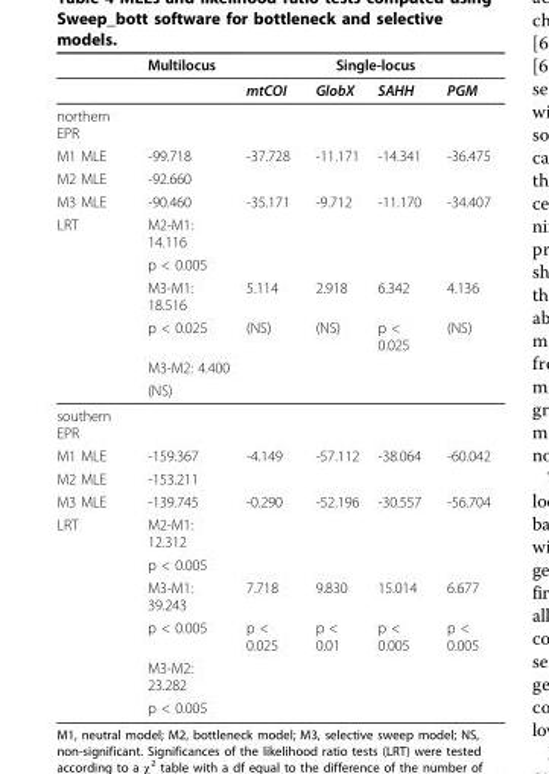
<table><thead><tr><td rowspan="2"></td><td rowspan="2">Multilocus</td><td colspan="4">Single-locus</td></tr><tr><td>mtCOI</td><td>GlobX</td><td>SAHH</td><td>PGM</td></tr></thead><tbody><tr><td colspan="6">northern EPR</td></tr><tr><td>M1 MLE</td><td>-99.718</td><td>-37.728</td><td>-11.171</td><td>-14.341</td><td>-36.475</td></tr><tr><td>M2 MLE</td><td>-92.660</td><td></td><td></td><td></td><td></td></tr><tr><td>M3 MLE</td><td>-90.460</td><td>-35.171</td><td>-9.712</td><td>-11.170</td><td>-34.407</td></tr><tr><td rowspan="6">LRT</td><td>M2-M1: 14.116</td><td></td><td></td><td></td><td></td></tr><tr><td>p &lt; 0.005</td><td></td><td></td><td></td><td></td></tr><tr><td>M3-M1: 18.516</td><td>5.114</td><td>2.918</td><td>6.342</td><td>4.136</td></tr><tr><td>p &lt; 0.025</td><td>(NS)</td><td>(NS)</td><td>p &lt; 0.025</td><td>(NS)</td></tr><tr><td>M3-M2: 4.400</td><td></td><td></td><td></td><td></td></tr><tr><td>(NS)</td><td></td><td></td><td></td><td></td></tr><tr><td colspan="6">southern EPR</td></tr><tr><td>M1 MLE</td><td>-159.367</td><td>-4.149</td><td>-57.112</td><td>-38.064</td><td>-60.042</td></tr><tr><td>M2 MLE</td><td>-153.211</td><td></td><td></td><td></td><td></td></tr><tr><td>M3 MLE</td><td>-139.745</td><td>-0.290</td><td>-52.196</td><td>-30.557</td><td>-56.704</td></tr><tr><td rowspan="6">LRT</td><td>M2-M1: 12.312</td><td></td><td></td><td></td><td></td></tr><tr><td>p &lt; 0.005</td><td></td><td></td><td></td><td></td></tr><tr><td>M3-M1: 39.243</td><td>7.718</td><td>9.830</td><td>15.014</td><td>6.677</td></tr><tr><td>p &lt; 0.005</td><td>p &lt; 0.025</td><td>p &lt; 0.01</td><td>p &lt; 0.005</td><td>p &lt; 0.005</td></tr><tr><td>M3-M2: 23.282</td><td></td><td></td><td></td><td></td></tr><tr><td>p &lt; 0.005</td><td></td><td></td><td></td><td></td></tr></tbody></table>